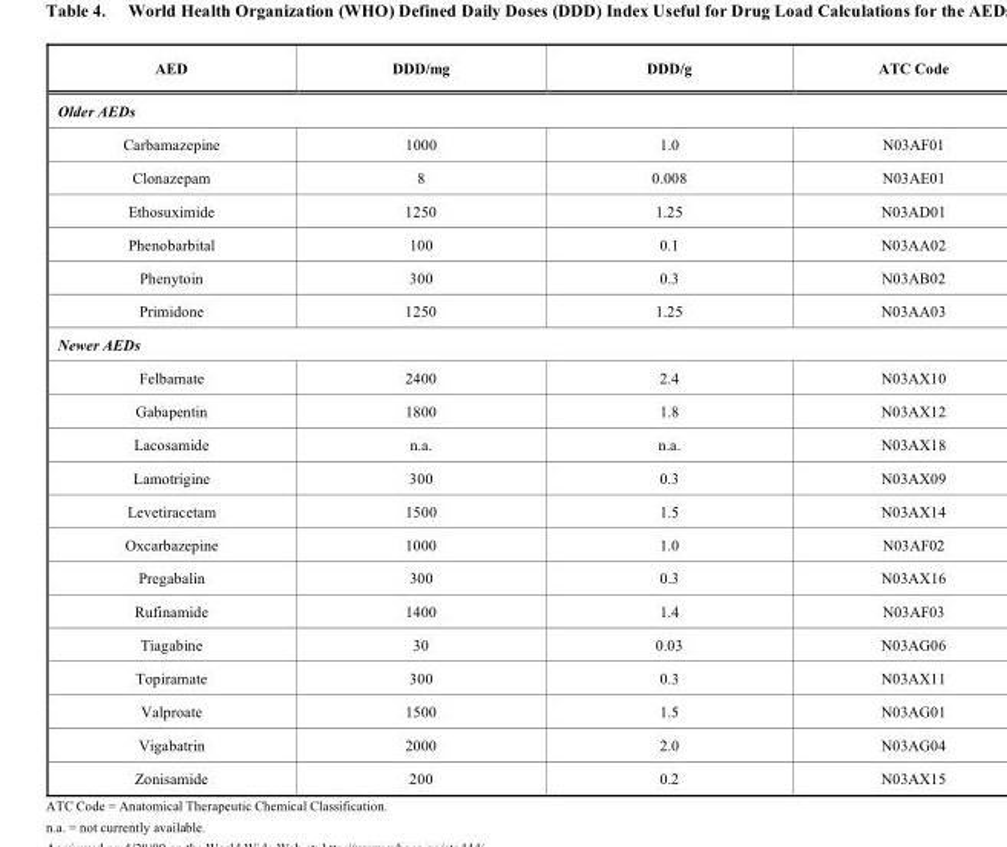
<table><thead><tr><td>AED</td><td>DDD/mg</td><td>DDD/g</td><td>ATC Code</td></tr></thead><tbody><tr><td colspan="4">Older AEDs</td></tr><tr><td>Carbamazepine</td><td>1000</td><td>1.0</td><td>N03AF01</td></tr><tr><td>Clonazepam</td><td>8</td><td>0.008</td><td>N03AE01</td></tr><tr><td>Ethosuximide</td><td>1250</td><td>1.25</td><td>N03AD01</td></tr><tr><td>Phenobarbital</td><td>100</td><td>0.1</td><td>N03AA02</td></tr><tr><td>Phenytoin</td><td>300</td><td>0.3</td><td>N03AB02</td></tr><tr><td>Primidone</td><td>1250</td><td>1.25</td><td>N03AA03</td></tr><tr><td colspan="4">Newer AEDs</td></tr><tr><td>Felbamate</td><td>2400</td><td>2.4</td><td>N03AX10</td></tr><tr><td>Gabapentin</td><td>1800</td><td>1.8</td><td>N03AX12</td></tr><tr><td>Lacosamide</td><td>n.a.</td><td>n.a.</td><td>N03AX18</td></tr><tr><td>Lamotrigine</td><td>300</td><td>0.3</td><td>N03AX09</td></tr><tr><td>Levetiracetam</td><td>1500</td><td>1.5</td><td>N03AX14</td></tr><tr><td>Oxcarbazepine</td><td>1000</td><td>1.0</td><td>N03AF02</td></tr><tr><td>Pregabalin</td><td>300</td><td>0.3</td><td>N03AX16</td></tr><tr><td>Rufinamide</td><td>1400</td><td>1.4</td><td>N03AF03</td></tr><tr><td>Tiagabine</td><td>30</td><td>0.03</td><td>N03AG06</td></tr><tr><td>Topiramate</td><td>300</td><td>0.3</td><td>N03AX11</td></tr><tr><td>Valproate</td><td>1500</td><td>1.5</td><td>N03AG01</td></tr><tr><td>Vigabatrin</td><td>2000</td><td>2.0</td><td>N03AG04</td></tr><tr><td>Zonisamide</td><td>200</td><td>0.2</td><td>N03AX15</td></tr></tbody></table>